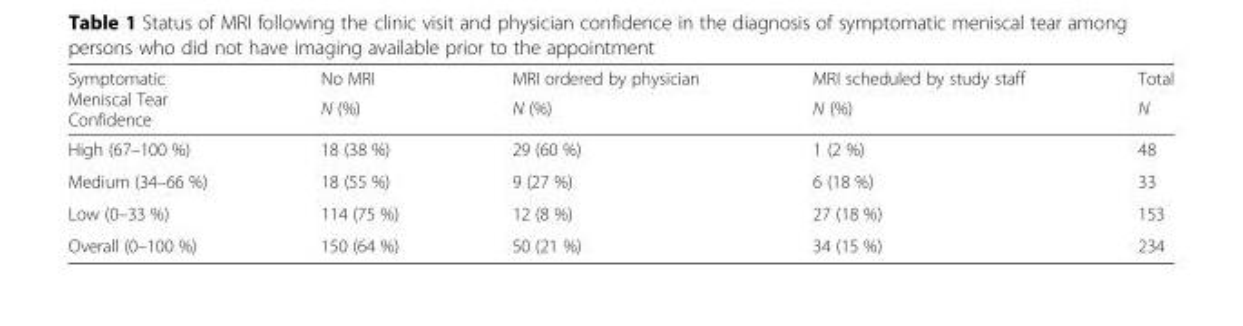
<table><thead><tr><td rowspan="2">Symptomatic Meniscal Tear Confidence</td><td rowspan="2">No MRI N (%)</td><td rowspan="2">MRI ordered by physician N (%)</td><td rowspan="2">MRI scheduled by study staff N (%)</td><td rowspan="2">Total N</td></tr><tr></tr></thead><tbody><tr><td>High (67–100 %)</td><td>18 (38 %)</td><td>29 (60 %)</td><td>1 (2 %)</td><td>48</td></tr><tr><td>Medium (34–66 %)</td><td>18 (55 %)</td><td>9 (27 %)</td><td>6 (18 %)</td><td>33</td></tr><tr><td>Low (0–33 %)</td><td>114 (75 %)</td><td>12 (8 %)</td><td>27 (18 %)</td><td>153</td></tr><tr><td>Overall (0–100 %)</td><td>150 (64 %)</td><td>50 (21 %)</td><td>34 (15 %)</td><td>234</td></tr></tbody></table>